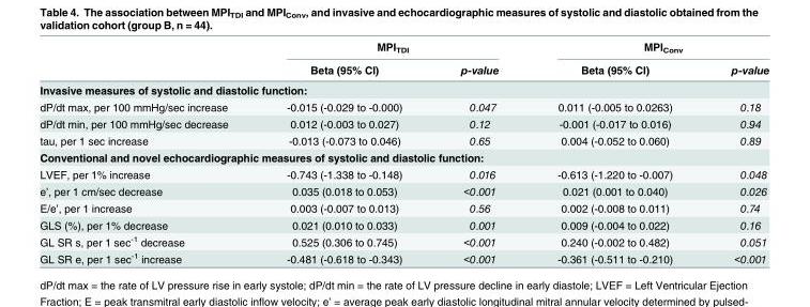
<table><thead><tr><td rowspan="2"></td><td colspan="2">MPI<sub>TDI</sub></td><td colspan="2">MPI<sub>Conv</sub></td></tr><tr><td>Beta (95% CI)</td><td>p-value</td><td>Beta (95% CI)</td><td>p-value</td></tr></thead><tbody><tr><td colspan="5">Invasive measures of systolic and diastolic function:</td></tr><tr><td>dP/dt max, per 100 mmHg/sec increase</td><td>-0.015 (-0.029 to -0.000)</td><td>0.047</td><td>0.011 (-0.005 to 0.0263)</td><td>0.18</td></tr><tr><td>dP/dt min, per 100 mmHg/sec decrease</td><td>0.012 (-0.003 to 0.027)</td><td>0.12</td><td>-0.001 (-0.017 to 0.016)</td><td>0.94</td></tr><tr><td>tau, per 1 sec increase</td><td>-0.013 (-0.073 to 0.046)</td><td>0.65</td><td>0.004 (-0.052 to 0.060)</td><td>0.89</td></tr><tr><td colspan="5">Conventional and novel echocardiographic measures of systolic and diastolic function:</td></tr><tr><td>LVEF, per 1% increase</td><td>-0.743 (-1.338 to -0.148)</td><td>0.016</td><td>-0.613 (-1.220 to -0.007)</td><td>0.048</td></tr><tr><td>e’, per 1 cm/sec decrease</td><td>0.035 (0.018 to 0.053)</td><td>&lt;0.001</td><td>0.021 (0.001 to 0.040)</td><td>0.026</td></tr><tr><td>E/e’, per 1 increase</td><td>0.003 (-0.007 to 0.013)</td><td>0.56</td><td>0.002 (-0.008 to 0.011)</td><td>0.74</td></tr><tr><td>GLS (%), per 1% decrease</td><td>0.021 (0.010 to 0.033)</td><td>0.001</td><td>0.009 (-0.004 to 0.022)</td><td>0.16</td></tr><tr><td>GL SR s, per 1 sec<sup>-1</sup> decrease</td><td>0.525 (0.306 to 0.745)</td><td>&lt;0.001</td><td>0.240 (-0.002 to 0.482)</td><td>0.051</td></tr><tr><td>GL SR e, per 1 sec<sup>-1</sup> increase</td><td>-0.481 (-0.618 to -0.343)</td><td>&lt;0.001</td><td>-0.361 (-0.511 to -0.210)</td><td>&lt;0.001</td></tr></tbody></table>